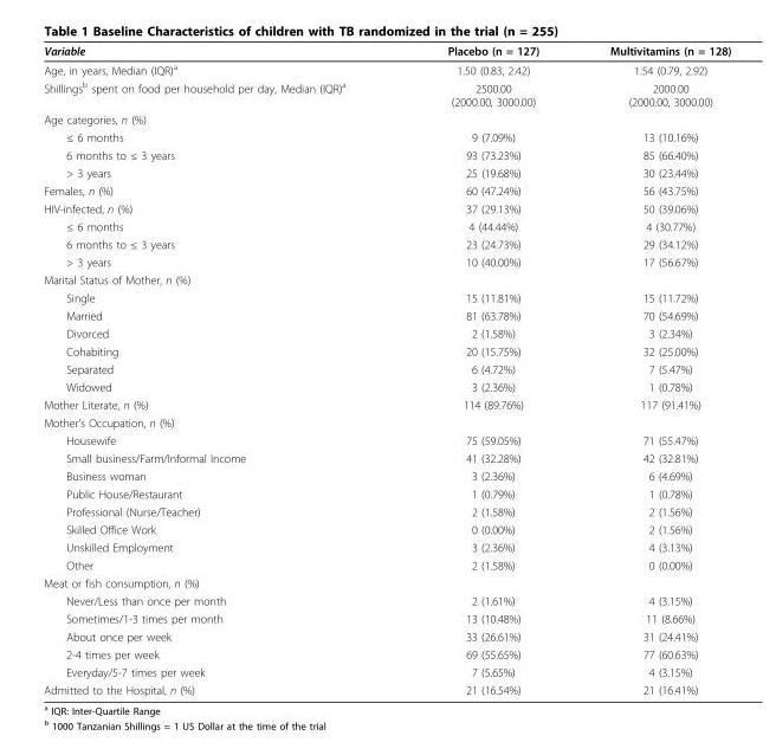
<table><thead><tr><td>Variable</td><td>Placebo (n = 127)</td><td>Multivitamins (n = 128)</td></tr></thead><tbody><tr><td>Age, in years, Median (IQR)<sup>a</sup></td><td>1.50 (0.83, 2.42)</td><td>1.54 (0.79, 2.92)</td></tr><tr><td>Shillings<sup>b</sup> spent on food per household per day, Median (IQR)<sup>a</sup></td><td>2500.00 (2000.00, 3000.00)</td><td>2000.00 (2000.00, 3000.00)</td></tr><tr><td colspan="3">Age categories, n (%)</td></tr><tr><td>≤ 6 months</td><td>9 (7.09%)</td><td>13 (10.16%)</td></tr><tr><td>6 months to ≤ 3 years</td><td>93 (73.23%)</td><td>85 (66.40%)</td></tr><tr><td>&gt; 3 years</td><td>25 (19.68%)</td><td>30 (23.44%)</td></tr><tr><td>Females, n (%)</td><td>60 (47.24%)</td><td>56 (43.75%)</td></tr><tr><td>HIV-infected, n (%)</td><td>37 (29.13%)</td><td>50 (39.06%)</td></tr><tr><td>≤ 6 months</td><td>4 (44.44%)</td><td>4 (30.77%)</td></tr><tr><td>6 months to ≤ 3 years</td><td>23 (24.73%)</td><td>29 (34.12%)</td></tr><tr><td>&gt; 3 years</td><td>10 (40.00%)</td><td>17 (56.67%)</td></tr><tr><td colspan="3">Marital Status of Mother, n (%)</td></tr><tr><td>Single</td><td>15 (11.81%)</td><td>15 (11.72%)</td></tr><tr><td>Married</td><td>81 (63.78%)</td><td>70 (54.69%)</td></tr><tr><td>Divorced</td><td>2 (1.58%)</td><td>3 (2.34%)</td></tr><tr><td>Cohabiting</td><td>20 (15.75%)</td><td>32 (25.00%)</td></tr><tr><td>Separated</td><td>6 (4.72%)</td><td>7 (5.47%)</td></tr><tr><td>Widowed</td><td>3 (2.36%)</td><td>1 (0.78%)</td></tr><tr><td>Mother Literate, n (%)</td><td>114 (89.76%)</td><td>117 (91.41%)</td></tr><tr><td colspan="3">Mother’s Occupation, n (%)</td></tr><tr><td>Housewife</td><td>75 (59.05%)</td><td>71 (55.47%)</td></tr><tr><td>Small business/Farm/Informal Income</td><td>41 (32.28%)</td><td>42 (32.81%)</td></tr><tr><td>Business woman</td><td>3 (2.36%)</td><td>6 (4.69%)</td></tr><tr><td>Public House/Restaurant</td><td>1 (0.79%)</td><td>1 (0.78%)</td></tr><tr><td>Professional (Nurse/Teacher)</td><td>2 (1.58%)</td><td>2 (1.56%)</td></tr><tr><td>Skilled Office Work</td><td>0 (0.00%)</td><td>2 (1.56%)</td></tr><tr><td>Unskilled Employment</td><td>3 (2.36%)</td><td>4 (3.13%)</td></tr><tr><td>Other</td><td>2 (1.58%)</td><td>0 (0.00%)</td></tr><tr><td colspan="3">Meat or fish consumption, n (%)</td></tr><tr><td>Never/Less than once per month</td><td>2 (1.61%)</td><td>4 (3.15%)</td></tr><tr><td>Sometimes/1-3 times per month</td><td>13 (10.48%)</td><td>11 (8.66%)</td></tr><tr><td>About once per week</td><td>33 (26.61%)</td><td>31 (24.41%)</td></tr><tr><td>2-4 times per week</td><td>69 (55.65%)</td><td>77 (60.63%)</td></tr><tr><td>Everyday/5-7 times per week</td><td>7 (5.65%)</td><td>4 (3.15%)</td></tr><tr><td>Admitted to the Hospital, n (%)</td><td>21 (16.54%)</td><td>21 (16.41%)</td></tr></tbody></table>